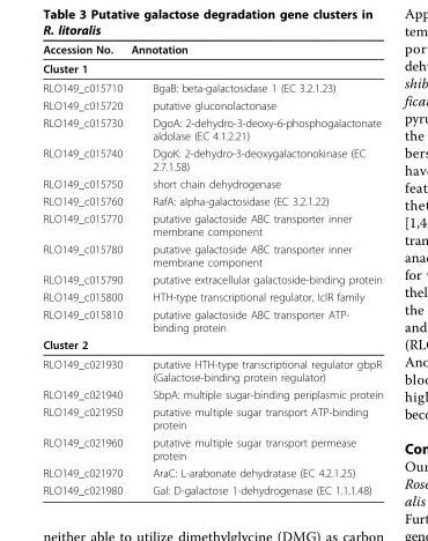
<table><thead><tr><td>Accession No.</td><td>Annotation</td></tr></thead><tbody><tr><td colspan="2">Cluster 1</td></tr><tr><td>RLO149_c015710</td><td>BgaB: beta-galactosidase 1 (EC 3.2.1.23)</td></tr><tr><td>RLO149_c015720</td><td>putative gluconolactonase</td></tr><tr><td>RLO149_c015730</td><td>DgoA: 2-dehydro-3-deoxy-6-phosphogalactonate aldolase (EC 4.1.2.21)</td></tr><tr><td>RLO149_c015740</td><td>DgoK: 2-dehydro-3-deoxygalactonokinase (EC 2.7.1.58)</td></tr><tr><td>RLO149_c015750</td><td>short chain dehydrogenase</td></tr><tr><td>RLO149_c015760</td><td>RafA: alpha-galactosidase (EC 3.2.1.22)</td></tr><tr><td>RLO149_c015770</td><td>putative galactoside ABC transporter inner membrane component</td></tr><tr><td>RLO149_c015780</td><td>putative galactoside ABC transporter inner membrane component</td></tr><tr><td>RLO149_c015790</td><td>putative extracellular galactoside-binding protein</td></tr><tr><td>RLO149_c015800</td><td>HTH-type transcriptional regulator, IclR family</td></tr><tr><td>RLO149_c015810</td><td>putative galactoside ABC transporter ATP- binding protein</td></tr><tr><td colspan="2">Cluster 2</td></tr><tr><td>RLO149_c021930</td><td>putative HTH-type transcriptional regulator gbpR (Galactose-binding protein regulator)</td></tr><tr><td>RLO149_c021940</td><td>SbpA: multiple sugar-binding periplasmic protein</td></tr><tr><td>RLO149_c021950</td><td>putative multiple sugar transport ATP-binding protein</td></tr><tr><td>RLO149_c021960</td><td>putative multiple sugar transport permease protein</td></tr><tr><td>RLO149_c021970</td><td>AraC: L-arabonate dehydratase (EC 4.2.1.25)</td></tr><tr><td>RLO149_c021980</td><td>Gal: D-galactose 1-dehydrogenase (EC 1.1.1.48)</td></tr></tbody></table>